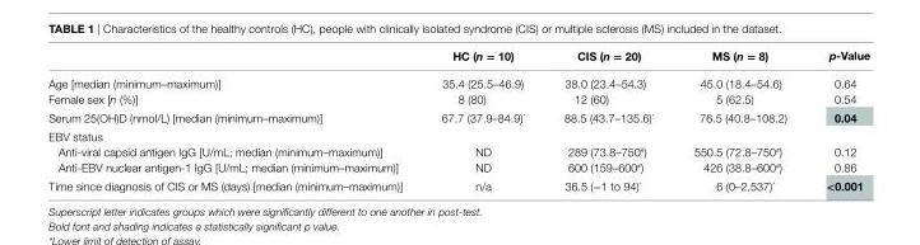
<table><thead><tr><td></td><td>hc (n = 10)</td><td>cis (n = 20)</td><td>Ms (n = 8)</td><td>p-Value</td></tr></thead><tbody><tr><td>Age [median (minimum–maximum)]</td><td>35.4 (25.5–46.9)</td><td>38.0 (23.4–54.3)</td><td>45.0 (18.4–54.6)</td><td>0.64</td></tr><tr><td>Female sex [n (%)]</td><td>8 (80)</td><td>12 (60)</td><td>5 (62.5)</td><td>0.54</td></tr><tr><td>Serum 25(OH)D (nmol/L) [median (minimum–maximum)]</td><td>67.7 (37.9–84.9)*</td><td>88.5 (43.7–135.6)*</td><td>76.5 (40.8–108.2)</td><td>0.04</td></tr><tr><td colspan="5">EBV status</td></tr><tr><td>Anti-viral capsid antigen IgG [U/mL; median (minimum–maximum)]</td><td>ND</td><td>289 (73.8–750<sup>#</sup>)</td><td>550.5 (72.8–750<sup>#</sup>)</td><td>0.12</td></tr><tr><td>Anti-EBV nuclear antigen-1 IgG [U/mL; median (minimum–maximum)]</td><td>ND</td><td>600 (159–600<sup>#</sup>)</td><td>426 (38.8–600<sup>#</sup>)</td><td>0.86</td></tr><tr><td>Time since diagnosis of CIS or MS (days) [median (minimum–maximum)]</td><td>n/a</td><td>36.5 (−1 to 94)*</td><td>6 (0–2,537)*</td><td>&lt;0.001</td></tr></tbody></table>